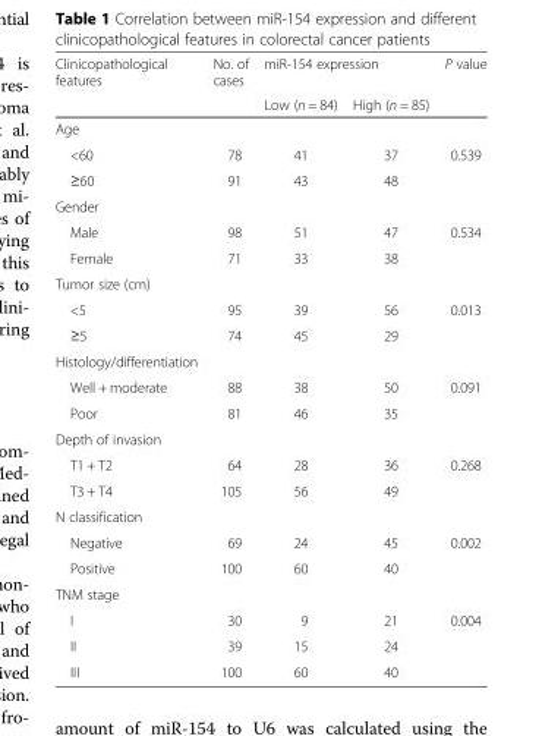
<table><thead><tr><td rowspan="2">Clinicopathological features</td><td rowspan="2">No. of cases</td><td colspan="2">miR-154 expression</td><td rowspan="2">P value</td></tr><tr><td>Low (n = 84)</td><td>High (n = 85)</td></tr></thead><tbody><tr><td colspan="5">Age</td></tr><tr><td>&lt;60</td><td>78</td><td>41</td><td>37</td><td>0.539</td></tr><tr><td>≥60</td><td>91</td><td>43</td><td>48</td><td></td></tr><tr><td colspan="5">Gender</td></tr><tr><td>Male</td><td>98</td><td>51</td><td>47</td><td>0.534</td></tr><tr><td>Female</td><td>71</td><td>33</td><td>38</td><td></td></tr><tr><td colspan="5">Tumor size (cm)</td></tr><tr><td>&lt;5</td><td>95</td><td>39</td><td>56</td><td>0.013</td></tr><tr><td>≥5</td><td>74</td><td>45</td><td>29</td><td></td></tr><tr><td colspan="5">Histology/differentiation</td></tr><tr><td>Well + moderate</td><td>88</td><td>38</td><td>50</td><td>0.091</td></tr><tr><td>Poor</td><td>81</td><td>46</td><td>35</td><td></td></tr><tr><td colspan="5">Depth of invasion</td></tr><tr><td>T1 + T2</td><td>64</td><td>28</td><td>36</td><td>0.268</td></tr><tr><td>T3 + T4</td><td>105</td><td>56</td><td>49</td><td></td></tr><tr><td colspan="5">N classification</td></tr><tr><td>Negative</td><td>69</td><td>24</td><td>45</td><td>0.002</td></tr><tr><td>Positive</td><td>100</td><td>60</td><td>40</td><td></td></tr><tr><td colspan="5">TNM stage</td></tr><tr><td>I</td><td>30</td><td>9</td><td>21</td><td>0.004</td></tr><tr><td>II</td><td>39</td><td>15</td><td>24</td><td></td></tr><tr><td>III</td><td>100</td><td>60</td><td>40</td><td></td></tr></tbody></table>